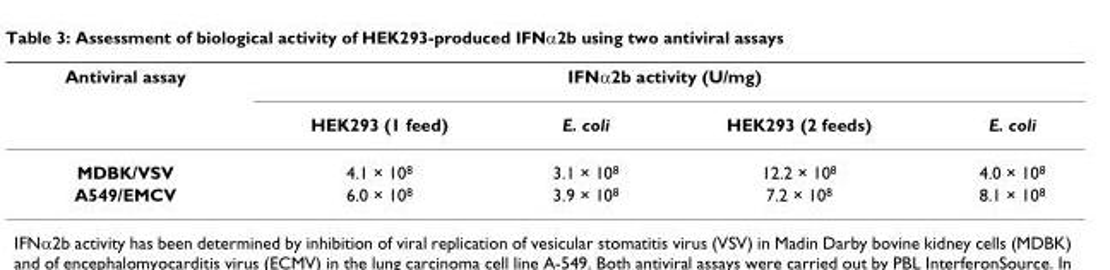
<table><thead><tr><td rowspan="2">Antiviral assay</td><td colspan="4">IFNα2b activity (U/mg)</td></tr><tr><td>HEK293 (1 feed)</td><td>E. coli</td><td>HEK293 (2 feeds)</td><td>E. coli</td></tr></thead><tbody><tr><td>MDBK/VSV</td><td>4.1 × 10<sup>8</sup></td><td>3.1 × 10<sup>8</sup></td><td>12.2 × 10<sup>8</sup></td><td>4.0 × 10<sup>8</sup></td></tr><tr><td>A549/EMCV</td><td>6.0 × 10<sup>8</sup></td><td>3.9 × 10<sup>8</sup></td><td>7.2 × 10<sup>8</sup></td><td>8.1 × 10<sup>8</sup></td></tr></tbody></table>